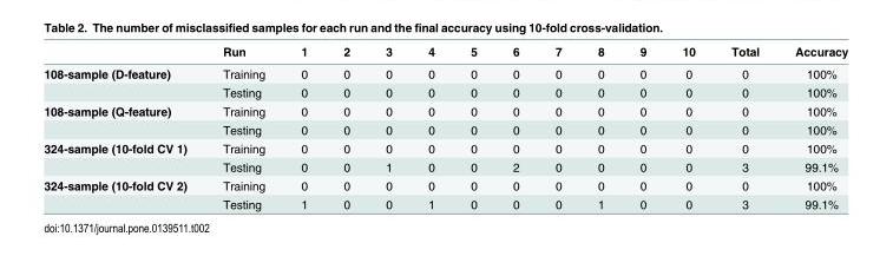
<table><thead><tr><td></td><td>Run</td><td>1</td><td>2</td><td>3</td><td>4</td><td>5</td><td>6</td><td>7</td><td>8</td><td>9</td><td>10</td><td>Total</td><td>Accuracy</td></tr></thead><tbody><tr><td rowspan="2">108-sample (D-feature)</td><td>Training</td><td>0</td><td>0</td><td>0</td><td>0</td><td>0</td><td>0</td><td>0</td><td>0</td><td>0</td><td>0</td><td>0</td><td>100%</td></tr><tr><td>Testing</td><td>0</td><td>0</td><td>0</td><td>0</td><td>0</td><td>0</td><td>0</td><td>0</td><td>0</td><td>0</td><td>0</td><td>100%</td></tr><tr><td rowspan="2">108-sample (Q-feature)</td><td>Training</td><td>0</td><td>0</td><td>0</td><td>0</td><td>0</td><td>0</td><td>0</td><td>0</td><td>0</td><td>0</td><td>0</td><td>100%</td></tr><tr><td>Testing</td><td>0</td><td>0</td><td>0</td><td>0</td><td>0</td><td>0</td><td>0</td><td>0</td><td>0</td><td>0</td><td>0</td><td>100%</td></tr><tr><td rowspan="2">324-sample (10-fold CV 1)</td><td>Training</td><td>0</td><td>0</td><td>0</td><td>0</td><td>0</td><td>0</td><td>0</td><td>0</td><td>0</td><td>0</td><td>0</td><td>100%</td></tr><tr><td>Testing</td><td>0</td><td>0</td><td>1</td><td>0</td><td>0</td><td>2</td><td>0</td><td>0</td><td>0</td><td>0</td><td>3</td><td>99.1%</td></tr><tr><td rowspan="2">324-sample (10-fold CV 2)</td><td>Training</td><td>0</td><td>0</td><td>0</td><td>0</td><td>0</td><td>0</td><td>0</td><td>0</td><td>0</td><td>0</td><td>0</td><td>100%</td></tr><tr><td>Testing</td><td>1</td><td>0</td><td>0</td><td>1</td><td>0</td><td>0</td><td>0</td><td>1</td><td>0</td><td>0</td><td>3</td><td>99.1%</td></tr></tbody></table>